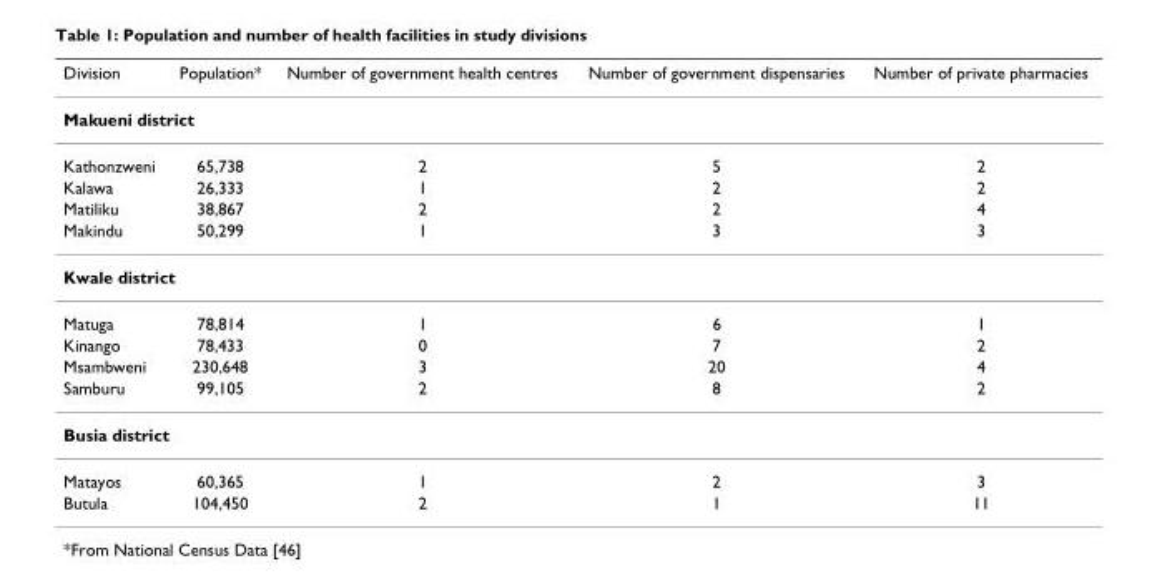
<table><thead><tr><td>Division</td><td>Population*</td><td>Number of government health centres</td><td>Number of government dispensaries</td><td>Number of private pharmacies</td></tr></thead><tbody><tr><td colspan="5">Makueni district</td></tr><tr><td>Kathonzweni</td><td>65,738</td><td>2</td><td>5</td><td>2</td></tr><tr><td>Kalawa</td><td>26,333</td><td>1</td><td>2</td><td>2</td></tr><tr><td>Matiliku</td><td>38,867</td><td>2</td><td>2</td><td>4</td></tr><tr><td>Makindu</td><td>50,299</td><td>1</td><td>3</td><td>3</td></tr><tr><td colspan="5">Kwale district</td></tr><tr><td>Matuga</td><td>78,814</td><td>1</td><td>6</td><td>1</td></tr><tr><td>Kinango</td><td>78,433</td><td>0</td><td>7</td><td>2</td></tr><tr><td>Msambweni</td><td>230,648</td><td>3</td><td>20</td><td>4</td></tr><tr><td>Samburu</td><td>99,105</td><td>2</td><td>8</td><td>2</td></tr><tr><td colspan="5">Busia district</td></tr><tr><td>Matayos</td><td>60,365</td><td>1</td><td>2</td><td>3</td></tr><tr><td>Butula</td><td>104,450</td><td>2</td><td>1</td><td>11</td></tr></tbody></table>